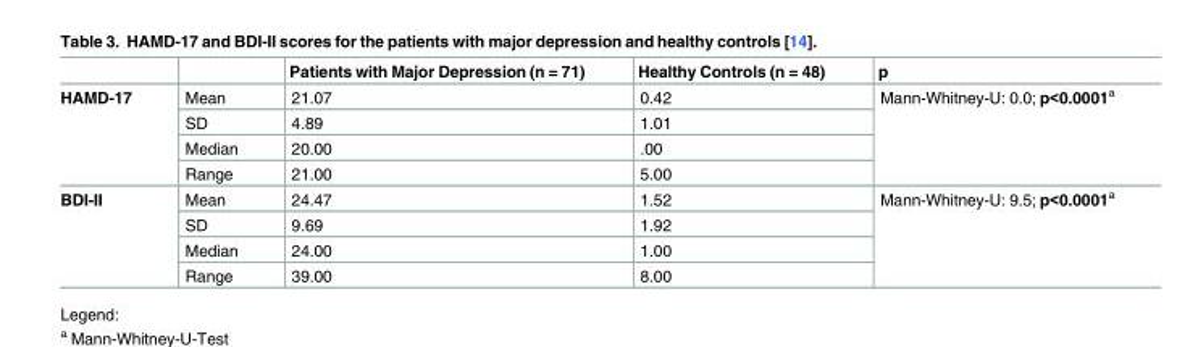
<table><thead><tr><td></td><td></td><td>Patients with Major Depression (n = 71)</td><td>Healthy Controls (n = 48)</td><td>p</td></tr></thead><tbody><tr><td rowspan="4">HAMD-17</td><td>Mean</td><td>21.07</td><td>0.42</td><td rowspan="4">Mann-Whitney-U: 0.0; p&lt;0.0001<sup>a</sup></td></tr><tr><td>SD</td><td>4.89</td><td>1.01</td></tr><tr><td>Median</td><td>20.00</td><td>.00</td></tr><tr><td>Range</td><td>21.00</td><td>5.00</td></tr><tr><td rowspan="4">BDI-II</td><td>Mean</td><td>24.47</td><td>1.52</td><td rowspan="4">Mann-Whitney-U: 9.5; p&lt;0.0001<sup>a</sup></td></tr><tr><td>SD</td><td>9.69</td><td>1.92</td></tr><tr><td>Median</td><td>24.00</td><td>1.00</td></tr><tr><td>Range</td><td>39.00</td><td>8.00</td></tr></tbody></table>